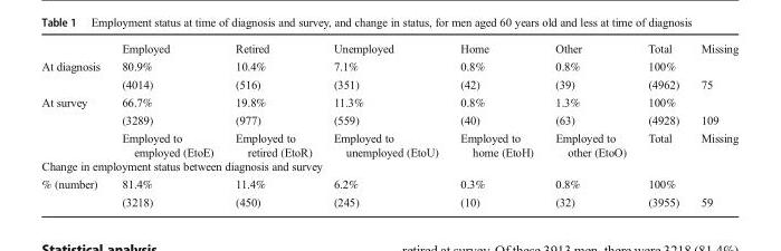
<table><thead><tr><td></td><td>Employed</td><td>Retired</td><td>Unemployed</td><td>Home</td><td>Other</td><td>Total</td><td>Missing</td></tr></thead><tbody><tr><td rowspan="2">At diagnosis</td><td>80.9%</td><td>10.4%</td><td>7.1%</td><td>0.8%</td><td>0.8%</td><td>100%</td><td></td></tr><tr><td>(4014)</td><td>(516)</td><td>(351)</td><td>(42)</td><td>(39)</td><td>(4962)</td><td>75</td></tr><tr><td rowspan="3">At survey</td><td>66.7%</td><td>19.8%</td><td>11.3%</td><td>0.8%</td><td>1.3%</td><td>100%</td><td></td></tr><tr><td>(3289)</td><td>(977)</td><td>(559)</td><td>(40)</td><td>(63)</td><td>(4928)</td><td>109</td></tr><tr><td>Employed to employed (EtoE)</td><td>Employed to retired (EtoR)</td><td>Employed to unemployed (EtoU)</td><td>Employed to home (EtoH)</td><td>Employed to other (EtoO)</td><td>Total</td><td>Missing</td></tr><tr><td colspan="8">Change in employment status between diagnosis and survey</td></tr><tr><td rowspan="2">% (number)</td><td>81.4%</td><td>11.4%</td><td>6.2%</td><td>0.3%</td><td>0.8%</td><td>100%</td><td></td></tr><tr><td>(3218)</td><td>(450)</td><td>(245)</td><td>(10)</td><td>(32)</td><td>(3955)</td><td>59</td></tr></tbody></table>